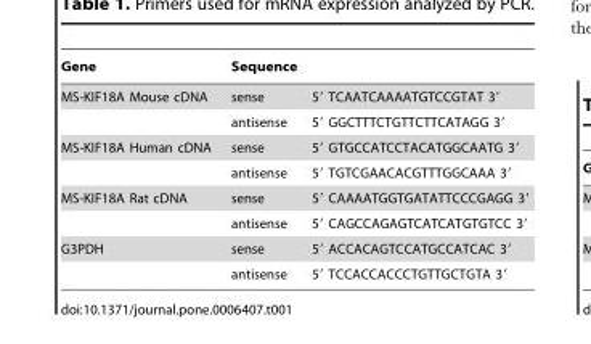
<table><thead><tr><td rowspan="2">Gene MS-KIF18A Mouse cDNA</td><td colspan="2">Sequence</td></tr><tr><td>sense</td><td>5′ TCAATCAAAATGTCCGTAT 3′</td></tr></thead><tbody><tr><td></td><td>antisense</td><td>5′ GGCTTTCTGTTCTTCATAGG 3′</td></tr><tr><td rowspan="2">MS-KIF18A Human cDNA</td><td>sense</td><td>5′ GTGCCATCCTACATGGCAATG 3′</td></tr><tr><td>antisense</td><td>5′ TGTCGAACACGTTTGGCAAA 3′</td></tr><tr><td rowspan="2">MS-KIF18A Rat cDNA</td><td>sense</td><td>5′ CAAAATGGTGATATTCCCGAGG 3′</td></tr><tr><td>antisense</td><td>5′ CAGCCAGAGTCATCATGTGTCC 3′</td></tr><tr><td rowspan="2">G3PDH</td><td>sense</td><td>5′ ACCACAGTCCATGCCATCAC 3′</td></tr><tr><td>antisense</td><td>5′ TCCACCACCCTGTTGCTGTA 3′</td></tr></tbody></table>